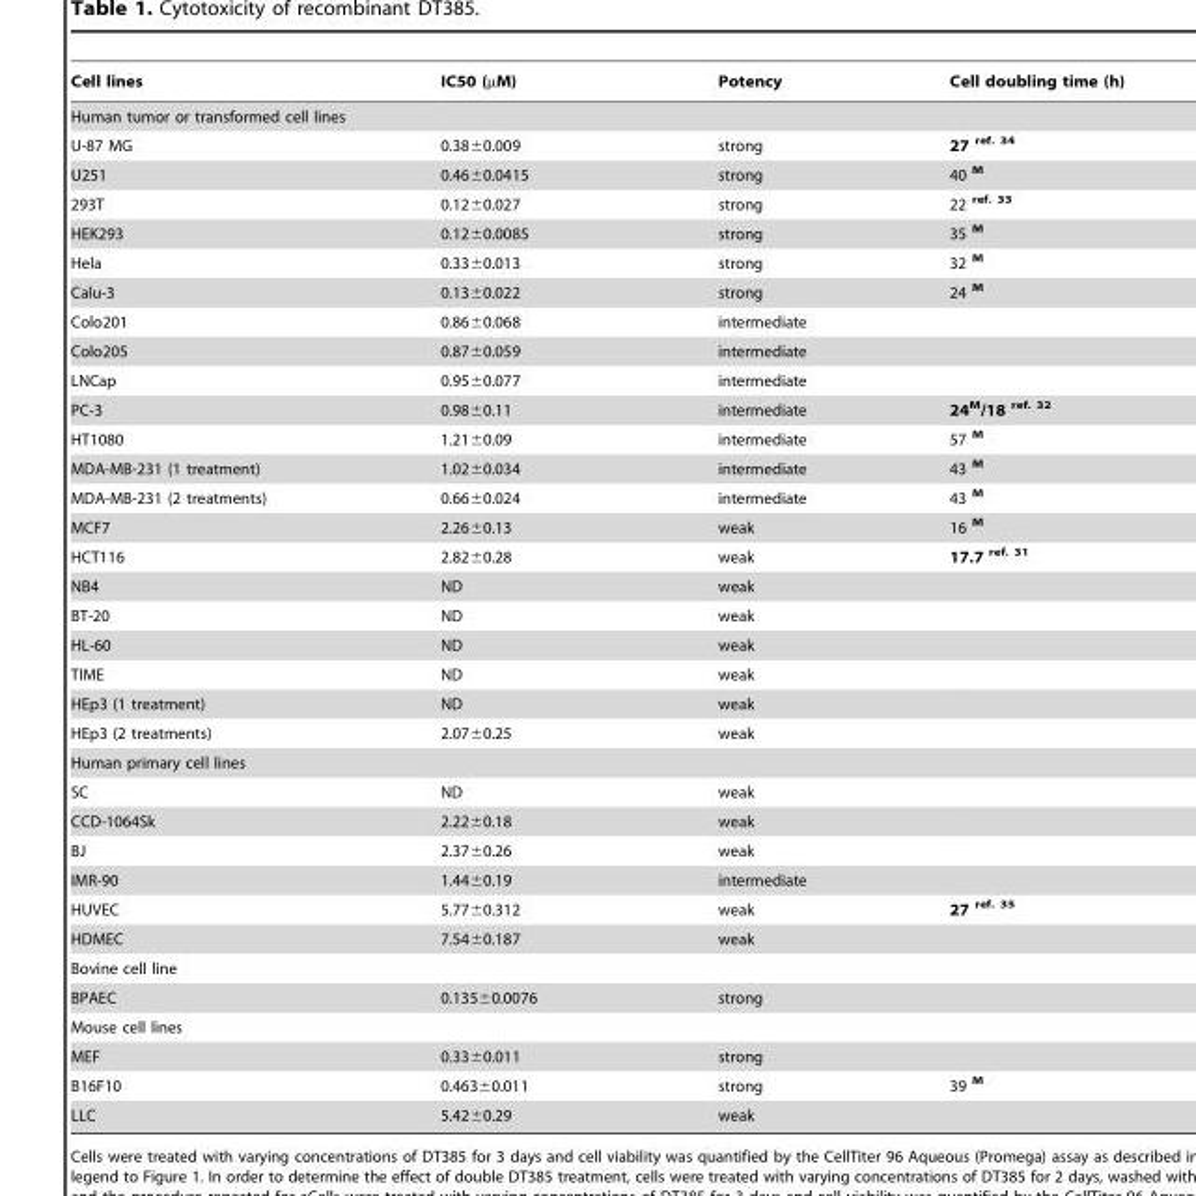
<table><thead><tr><td>Cell lines</td><td>IC50 (µM)</td><td>Potency</td><td>Cell doubling time (h)</td></tr></thead><tbody><tr><td colspan="4">Human tumor or transformed cell lines</td></tr><tr><td>U-87 MG</td><td>0.38±0.009</td><td>strong</td><td>27 <sup>ref. 34</sup></td></tr><tr><td>U251</td><td>0.46±0.0415</td><td>strong</td><td>40 <sup>M</sup></td></tr><tr><td>293T</td><td>0.12±0.027</td><td>strong</td><td>22 <sup>ref. 33</sup></td></tr><tr><td>HEK293</td><td>0.12±0.0085</td><td>strong</td><td>35 <sup>M</sup></td></tr><tr><td>Hela</td><td>0.33±0.013</td><td>strong</td><td>32 <sup>M</sup></td></tr><tr><td>Calu-3</td><td>0.13±0.022</td><td>strong</td><td>24 <sup>M</sup></td></tr><tr><td>Colo201</td><td>0.86±0.068</td><td>intermediate</td><td></td></tr><tr><td>Colo205</td><td>0.87±0.059</td><td>intermediate</td><td></td></tr><tr><td>LNCap</td><td>0.95±0.077</td><td>intermediate</td><td></td></tr><tr><td>PC-3</td><td>0.98±0.11</td><td>intermediate</td><td>24<sup>M</sup>/18 <sup>ref. 32</sup></td></tr><tr><td>HT1080</td><td>1.21±0.09</td><td>intermediate</td><td>57 <sup>M</sup></td></tr><tr><td>MDA-MB-231 (1 treatment)</td><td>1.02±0.034</td><td>intermediate</td><td>43 <sup>M</sup></td></tr><tr><td>MDA-MB-231 (2 treatments)</td><td>0.66±0.024</td><td>intermediate</td><td>43 <sup>M</sup></td></tr><tr><td>MCF7</td><td>2.26±0.13</td><td>weak</td><td>16 <sup>M</sup></td></tr><tr><td>HCT116</td><td>2.82±0.28</td><td>weak</td><td>17.7 <sup>ref. 31</sup></td></tr><tr><td>NB4</td><td>ND</td><td>weak</td><td></td></tr><tr><td>BT-20</td><td>ND</td><td>weak</td><td></td></tr><tr><td>HL-60</td><td>ND</td><td>weak</td><td></td></tr><tr><td>TIME</td><td>ND</td><td>weak</td><td></td></tr><tr><td>HEp3 (1 treatment)</td><td>ND</td><td>weak</td><td></td></tr><tr><td>HEp3 (2 treatments)</td><td>2.07±0.25</td><td>weak</td><td></td></tr><tr><td colspan="4">Human primary cell lines</td></tr><tr><td>SC</td><td>ND</td><td>weak</td><td></td></tr><tr><td>CCD-1064Sk</td><td>2.22±0.18</td><td>weak</td><td></td></tr><tr><td>BJ</td><td>2.37±0.26</td><td>weak</td><td></td></tr><tr><td>IMR-90</td><td>1.44±0.19</td><td>intermediate</td><td></td></tr><tr><td>HUVEC</td><td>5.77±0.312</td><td>weak</td><td>27 <sup>ref. 35</sup></td></tr><tr><td>HDMEC</td><td>7.54±0.187</td><td>weak</td><td></td></tr><tr><td colspan="4">Bovine cell line</td></tr><tr><td>BPAEC</td><td>0.135±0.0076</td><td>strong</td><td></td></tr><tr><td colspan="4">Mouse cell lines</td></tr><tr><td>MEF</td><td>0.33±0.011</td><td>strong</td><td></td></tr><tr><td>B16F10</td><td>0.463±0.011</td><td>strong</td><td>39 <sup>M</sup></td></tr><tr><td>LLC</td><td>5.42±0.29</td><td>weak</td><td></td></tr></tbody></table>